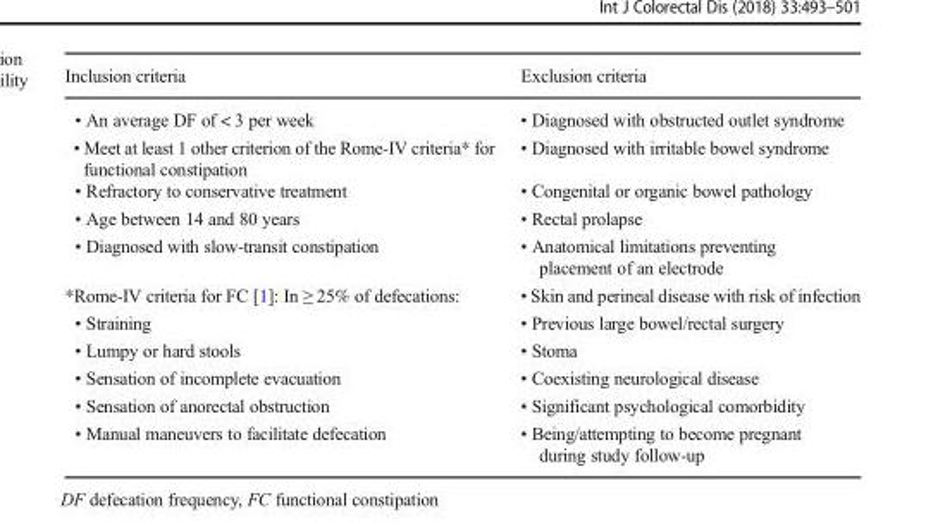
<table><thead><tr><td>Inclusion criteria</td><td>Exclusion criteria</td></tr></thead><tbody><tr><td>• An average DF of &lt; 3 per week</td><td>• Diagnosed with obstructed outlet syndrome</td></tr><tr><td>• Meet at least 1 other criterion of the Rome-IV criteria* for functional constipation</td><td>• Diagnosed with irritable bowel syndrome</td></tr><tr><td>• Refractory to conservative treatment</td><td>• Congenital or organic bowel pathology</td></tr><tr><td>• Age between 14 and 80 years</td><td>• Rectal prolapse</td></tr><tr><td>• Diagnosed with slow-transit constipation</td><td>• Anatomical limitations preventing placement of an electrode</td></tr><tr><td>*Rome-IV criteria for FC [1]: In ≥ 25% of defecations:</td><td>• Skin and perineal disease with risk of infection</td></tr><tr><td>• Straining</td><td>• Previous large bowel/rectal surgery</td></tr><tr><td>• Lumpy or hard stools</td><td>• Stoma</td></tr><tr><td>• Sensation of incomplete evacuation</td><td>• Coexisting neurological disease</td></tr><tr><td>• Sensation of anorectal obstruction</td><td>• Significant psychological comorbidity</td></tr><tr><td>• Manual maneuvers to facilitate defecation</td><td>• Being/attempting to become pregnant during study follow-up</td></tr></tbody></table>